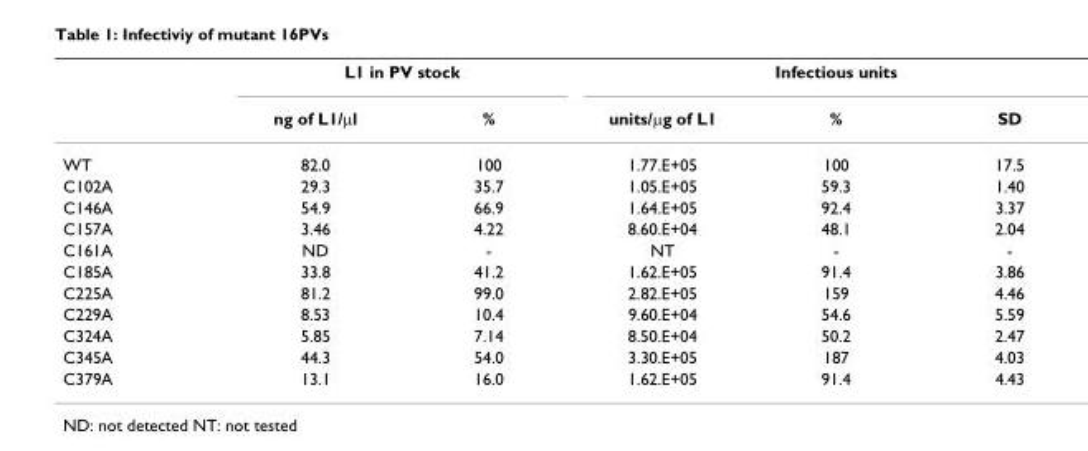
<table><thead><tr><td rowspan="2"></td><td colspan="2">L1 in PV stock</td><td colspan="3">Infectious units</td></tr><tr><td>ng of L1/µl</td><td>%</td><td>units/µg of L1</td><td>%</td><td>SD</td></tr></thead><tbody><tr><td>WT</td><td>82.0</td><td>100</td><td>1.77.E+05</td><td>100</td><td>17.5</td></tr><tr><td>C102A</td><td>29.3</td><td>35.7</td><td>1.05.E+05</td><td>59.3</td><td>1.40</td></tr><tr><td>C146A</td><td>54.9</td><td>66.9</td><td>1.64.E+05</td><td>92.4</td><td>3.37</td></tr><tr><td>C157A</td><td>3.46</td><td>4.22</td><td>8.60.E+04</td><td>48.1</td><td>2.04</td></tr><tr><td>C161A</td><td>ND</td><td>-</td><td>NT</td><td>-</td><td>-</td></tr><tr><td>C185A</td><td>33.8</td><td>41.2</td><td>1.62.E+05</td><td>91.4</td><td>3.86</td></tr><tr><td>C225A</td><td>81.2</td><td>99.0</td><td>2.82.E+05</td><td>159</td><td>4.46</td></tr><tr><td>C229A</td><td>8.53</td><td>10.4</td><td>9.60.E+04</td><td>54.6</td><td>5.59</td></tr><tr><td>C324A</td><td>5.85</td><td>7.14</td><td>8.50.E+04</td><td>50.2</td><td>2.47</td></tr><tr><td>C345A</td><td>44.3</td><td>54.0</td><td>3.30.E+05</td><td>187</td><td>4.03</td></tr><tr><td>C379A</td><td>13.1</td><td>16.0</td><td>1.62.E+05</td><td>91.4</td><td>4.43</td></tr></tbody></table>